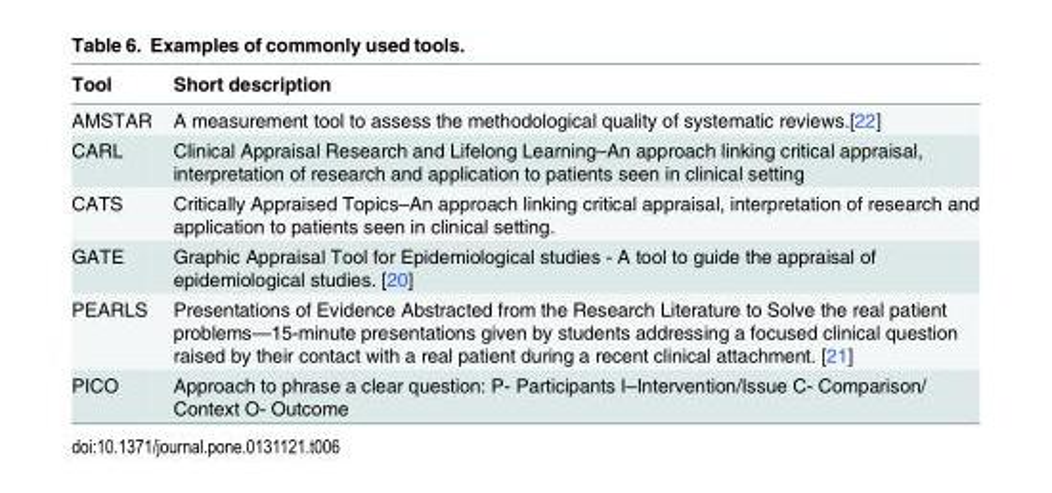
<table><thead><tr><td>Tool</td><td>Short description</td></tr></thead><tbody><tr><td>AMSTAR</td><td>A measurement tool to assess the methodological quality of systematic reviews.[22]</td></tr><tr><td>CARL</td><td>Clinical Appraisal Research and Lifelong Learning–An approach linking critical appraisal, interpretation of research and application to patients seen in clinical setting</td></tr><tr><td>CATS</td><td>Critically Appraised Topics–An approach linking critical appraisal, interpretation of research and application to patients seen in clinical setting.</td></tr><tr><td>GATE</td><td>Graphic Appraisal Tool for Epidemiological studies - A tool to guide the appraisal of epidemiological studies. [20]</td></tr><tr><td>PEARLS</td><td>Presentations of Evidence Abstracted from the Research Literature to Solve the real patient problems—15-minute presentations given by students addressing a focused clinical question raised by their contact with a real patient during a recent clinical attachment. [21]</td></tr><tr><td>PICO</td><td>Approach to phrase a clear question: P- Participants I–Intervention/Issue C- Comparison/ Context O- Outcome</td></tr></tbody></table>